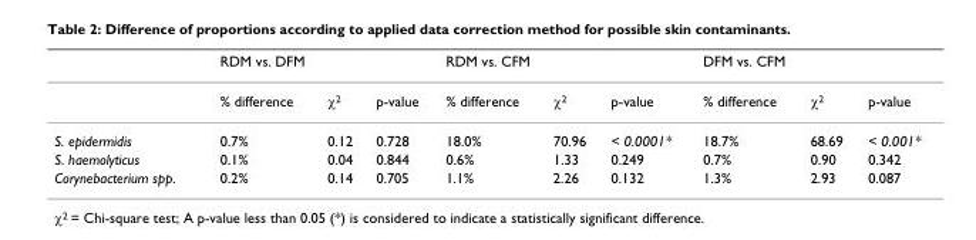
<table><thead><tr><td rowspan="2"></td><td colspan="3">RDM vs. DFM</td><td colspan="3">RDM vs. CFM</td><td colspan="3">DFM vs. CFM</td></tr><tr><td>% difference</td><td>χ<sup>2</sup></td><td>p-value</td><td>% difference</td><td>χ<sup>2</sup></td><td>p-value</td><td>% difference</td><td>χ<sup>2</sup></td><td>p-value</td></tr></thead><tbody><tr><td>S. epidermidis</td><td>0.7%</td><td>0.12</td><td>0.728</td><td>18.0%</td><td>70.96</td><td>&lt; 0.0001*</td><td>18.7%</td><td>68.69</td><td>&lt; 0.001*</td></tr><tr><td>S. haemolyticus</td><td>0.1%</td><td>0.04</td><td>0.844</td><td>0.6%</td><td>1.33</td><td>0.249</td><td>0.7%</td><td>0.90</td><td>0.342</td></tr><tr><td>Corynebacterium spp.</td><td>0.2%</td><td>0.14</td><td>0.705</td><td>1.1%</td><td>2.26</td><td>0.132</td><td>1.3%</td><td>2.93</td><td>0.087</td></tr></tbody></table>